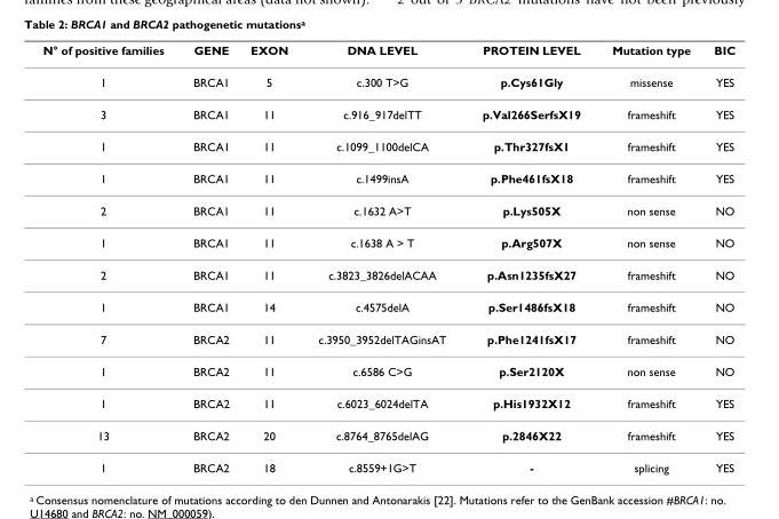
<table><thead><tr><td>N° of positive families</td><td>GENE</td><td>EXON</td><td>DNA LEVEL</td><td>PROTEIN LEVEL</td><td>Mutation type</td><td>BIC</td></tr></thead><tbody><tr><td>1</td><td>BRCA1</td><td>5</td><td>c.300 T&gt;G</td><td>p.Cys61Gly</td><td>missense</td><td>YES</td></tr><tr><td>3</td><td>BRCA1</td><td>11</td><td>c.916_917delTT</td><td>p.Val266SerfsX19</td><td>frameshift</td><td>YES</td></tr><tr><td>1</td><td>BRCA1</td><td>11</td><td>c.1099_1100delCA</td><td>p.Thr327fsX1</td><td>frameshift</td><td>YES</td></tr><tr><td>1</td><td>BRCA1</td><td>11</td><td>c.1499insA</td><td>p.Phe461fsX18</td><td>frameshift</td><td>YES</td></tr><tr><td>2</td><td>BRCA1</td><td>11</td><td>c.1632 A&gt;T</td><td>p.Lys505X</td><td>non sense</td><td>NO</td></tr><tr><td>1</td><td>BRCA1</td><td>11</td><td>c.1638 A &gt; T</td><td>p.Arg507X</td><td>non sense</td><td>NO</td></tr><tr><td>2</td><td>BRCA1</td><td>11</td><td>c.3823_3826delACAA</td><td>p.Asn1235fsX27</td><td>frameshift</td><td>NO</td></tr><tr><td>1</td><td>BRCA1</td><td>14</td><td>c.4575delA</td><td>p.Ser1486fsX18</td><td>frameshift</td><td>NO</td></tr><tr><td>7</td><td>BRCA2</td><td>11</td><td>c.3950_3952delTAGinsAT</td><td>p.Phe1241fsX17</td><td>frameshift</td><td>NO</td></tr><tr><td>1</td><td>BRCA2</td><td>11</td><td>c.6586 C&gt;G</td><td>p.Ser2120X</td><td>non sense</td><td>NO</td></tr><tr><td>1</td><td>BRCA2</td><td>11</td><td>c.6023_6024delTA</td><td>p.His1932X12</td><td>frameshift</td><td>YES</td></tr><tr><td>13</td><td>BRCA2</td><td>20</td><td>c.8764_8765delAG</td><td>p.2846X22</td><td>frameshift</td><td>YES</td></tr><tr><td>1</td><td>BRCA2</td><td>18</td><td>c.8559+1G&gt;T</td><td>-</td><td>splicing</td><td>YES</td></tr></tbody></table>